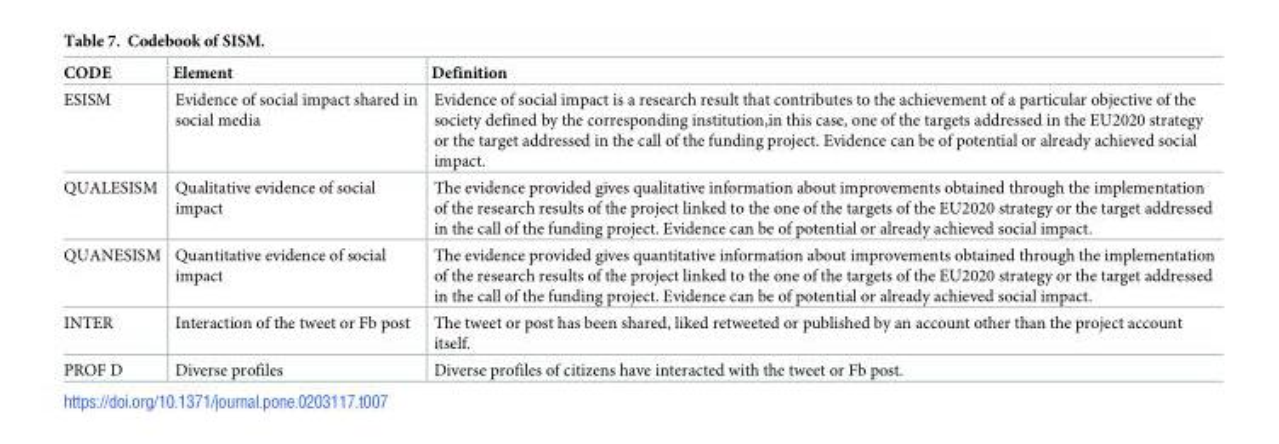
<table><thead><tr><td>CODE</td><td>Element</td><td>Definition</td></tr></thead><tbody><tr><td>ESISM</td><td>Evidence of social impact shared in social media</td><td>Evidence of social impact is a research result that contributes to the achievement of a particular objective of the society defined by the corresponding institution,in this case, one of the targets addressed in the EU2020 strategy or the target addressed in the call of the funding project. Evidence can be of potential or already achieved social impact.</td></tr><tr><td>QUALESISM</td><td>Qualitative evidence of social impact</td><td>The evidence provided gives qualitative information about improvements obtained through the implementation of the research results of the project linked to the one of the targets of the EU2020 strategy or the target addressed in the call of the funding project. Evidence can be of potential or already achieved social impact.</td></tr><tr><td>QUANESISM</td><td>Quantitative evidence of social impact</td><td>The evidence provided gives quantitative information about improvements obtained through the implementation of the research results of the project linked to the one of the targets of the EU2020 strategy or the target addressed in the call of the funding project. Evidence can be of potential or already achieved social impact.</td></tr><tr><td>INTER</td><td>Interaction of the tweet or Fb post</td><td>The tweet or post has been shared, liked retweeted or published by an account other than the project account itself.</td></tr><tr><td>PROF D</td><td>Diverse profiles</td><td>Diverse profiles of citizens have interacted with the tweet or Fb post.</td></tr></tbody></table>